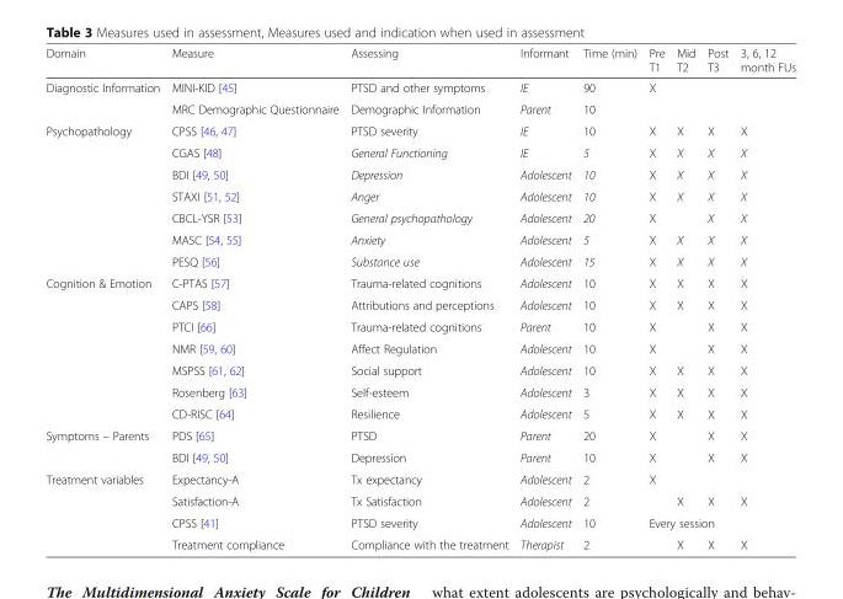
<table><thead><tr><td>Domain</td><td>Measure</td><td>Assessing</td><td>Informant</td><td>Time (min)</td><td>Pre T1</td><td>Mid T2</td><td>Post T3</td><td>3, 6, 12 month FUs</td></tr></thead><tbody><tr><td rowspan="2">Diagnostic Information</td><td>MINI-KID [45]</td><td>PTSD and other symptoms</td><td>IE</td><td>90</td><td>X</td><td></td><td></td><td></td></tr><tr><td>MRC Demographic Questionnaire</td><td>Demographic Information</td><td>Parent</td><td>10</td><td></td><td></td><td></td><td></td></tr><tr><td rowspan="7">Psychopathology</td><td>CPSS [46, 47]</td><td>PTSD severity</td><td>IE</td><td>10</td><td>X</td><td>X</td><td>X</td><td>X</td></tr><tr><td>CGAS [48]</td><td>General Functioning</td><td>IE</td><td>5</td><td>X</td><td>X</td><td>X</td><td>X</td></tr><tr><td>BDI [49, 50]</td><td>Depression</td><td>Adolescent</td><td>10</td><td>X</td><td>X</td><td>X</td><td>X</td></tr><tr><td>STAXI [51, 52]</td><td>Anger</td><td>Adolescent</td><td>10</td><td>X</td><td>X</td><td>X</td><td>X</td></tr><tr><td>CBCL-YSR [53]</td><td>General psychopathology</td><td>Adolescent</td><td>20</td><td>X</td><td></td><td>X</td><td>X</td></tr><tr><td>MASC [54, 55]</td><td>Anxiety</td><td>Adolescent</td><td>5</td><td>X</td><td>X</td><td>X</td><td>X</td></tr><tr><td>PESQ [56]</td><td>Substance use</td><td>Adolescent</td><td>15</td><td>X</td><td>X</td><td>X</td><td>X</td></tr><tr><td rowspan="7">Cognition &amp; Emotion</td><td>C-PTAS [57]</td><td>Trauma-related cognitions</td><td>Adolescent</td><td>10</td><td>X</td><td>X</td><td>X</td><td>X</td></tr><tr><td>CAPS [58]</td><td>Attributions and perceptions</td><td>Adolescent</td><td>10</td><td>X</td><td>X</td><td>X</td><td>X</td></tr><tr><td>PTCI [66]</td><td>Trauma-related cognitions</td><td>Parent</td><td>10</td><td>X</td><td></td><td>X</td><td>X</td></tr><tr><td>NMR [59, 60]</td><td>Affect Regulation</td><td>Adolescent</td><td>10</td><td>X</td><td></td><td>X</td><td>X</td></tr><tr><td>MSPSS [61, 62]</td><td>Social support</td><td>Adolescent</td><td>10</td><td>X</td><td>X</td><td>X</td><td>X</td></tr><tr><td>Rosenberg [63]</td><td>Self-esteem</td><td>Adolescent</td><td>3</td><td>X</td><td>X</td><td>X</td><td>X</td></tr><tr><td>CD-RISC [64]</td><td>Resilience</td><td>Adolescent</td><td>5</td><td>X</td><td>X</td><td>X</td><td>X</td></tr><tr><td rowspan="2">Symptoms – Parents</td><td>PDS [65]</td><td>PTSD</td><td>Parent</td><td>20</td><td>X</td><td></td><td>X</td><td>X</td></tr><tr><td>BDI [49, 50]</td><td>Depression</td><td>Parent</td><td>10</td><td>X</td><td></td><td>X</td><td>X</td></tr><tr><td rowspan="4">Treatment variables</td><td>Expectancy-A</td><td>Tx expectancy</td><td>Adolescent</td><td>2</td><td>X</td><td></td><td></td><td></td></tr><tr><td>Satisfaction-A</td><td>Tx Satisfaction</td><td>Adolescent</td><td>2</td><td></td><td>X</td><td>X</td><td>X</td></tr><tr><td>CPSS [41]</td><td>PTSD severity</td><td>Adolescent</td><td>10</td><td colspan="4">Every session</td></tr><tr><td>Treatment compliance</td><td>Compliance with the treatment</td><td>Therapist</td><td>2</td><td></td><td>X</td><td>X</td><td>X</td></tr></tbody></table>